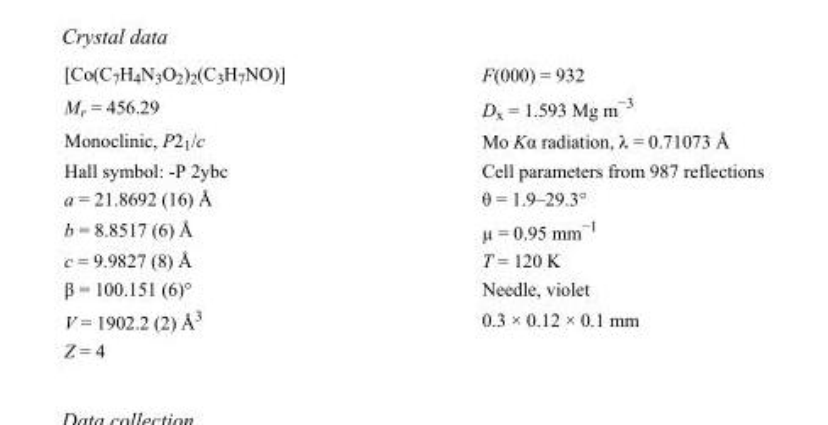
<table><tbody><tr><td>[Co(C<sub>7</sub>H<sub>4</sub>N<sub>3</sub>O<sub>2</sub>)<sub>2</sub>(C<sub>3</sub>H<sub>7</sub>NO)]</td><td>F(000) = 932</td></tr><tr><td>M<sub>r</sub> = 456.29</td><td>D<sub>x</sub> = 1.593 Mg m<sup>−3</sup></td></tr><tr><td>Monoclinic, P2<sub>1</sub>/c</td><td>Mo Kα radiation, λ = 0.71073 Å</td></tr><tr><td>Hall symbol: -P 2ybc</td><td>Cell parameters from 987 reflections</td></tr><tr><td>a = 21.8692 (16) Å</td><td>θ = 1.9–29.3°</td></tr><tr><td>b = 8.8517 (6) Å</td><td>µ = 0.95 mm<sup>−1</sup></td></tr><tr><td>c = 9.9827 (8) Å</td><td>T = 120 K</td></tr><tr><td>β = 100.151 (6)°</td><td>Needle, violet</td></tr><tr><td>V = 1902.2 (2) Å<sup>3</sup></td><td>0.3 × 0.12 × 0.1 mm</td></tr><tr><td>Z = 4</td><td></td></tr></tbody></table>